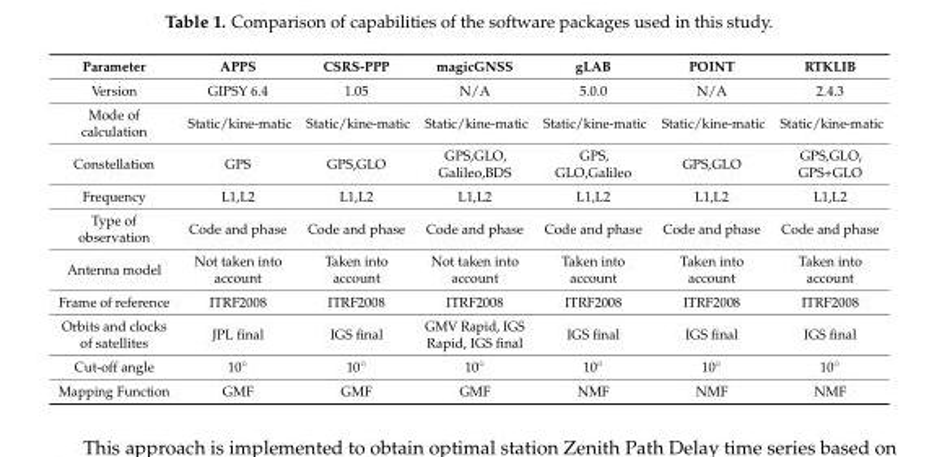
<table><thead><tr><td>Parameter</td><td>APPS</td><td>CSRS-PPP</td><td>magicGNSS</td><td>gLAB</td><td>POINT</td><td>RTKLIB</td></tr></thead><tbody><tr><td>Version</td><td>GIPSY 6.4</td><td>1.05</td><td>N/A</td><td>5.0.0</td><td>N/A</td><td>2.4.3</td></tr><tr><td>Mode of calculation</td><td>Static/kine-matic</td><td>Static/kine-matic</td><td>Static/kine-matic</td><td>Static/kine-matic</td><td>Static/kine-matic</td><td>Static/kine-matic</td></tr><tr><td>Constellation</td><td>GPS</td><td>GPS,GLO</td><td>GPS,GLO, Galileo,BDS</td><td>GPS, GLO,Galileo</td><td>GPS,GLO</td><td>GPS,GLO, GPS+GLO</td></tr><tr><td>Frequency</td><td>L1,L2</td><td>L1,L2</td><td>L1,L2</td><td>L1,L2</td><td>L1,L2</td><td>L1,L2</td></tr><tr><td>Type of observation</td><td>Code and phase</td><td>Code and phase</td><td>Code and phase</td><td>Code and phase</td><td>Code and phase</td><td>Code and phase</td></tr><tr><td>Antenna model</td><td>Not taken into account</td><td>Taken into account</td><td>Not taken into account</td><td>Taken into account</td><td>Taken into account</td><td>Taken into account</td></tr><tr><td>Frame of reference</td><td>ITRF2008</td><td>ITRF2008</td><td>ITRF2008</td><td>ITRF2008</td><td>ITRF2008</td><td>ITRF2008</td></tr><tr><td>Orbits and clocks of satellites</td><td>JPL final</td><td>IGS final</td><td>GMV Rapid, IGS Rapid, IGS final</td><td>IGS final</td><td>IGS final</td><td>IGS final</td></tr><tr><td>Cut-off angle</td><td>10◦</td><td>10◦</td><td>10◦</td><td>10◦</td><td>10◦</td><td>10◦</td></tr><tr><td>Mapping Function</td><td>GMF</td><td>GMF</td><td>GMF</td><td>NMF</td><td>NMF</td><td>NMF</td></tr></tbody></table>